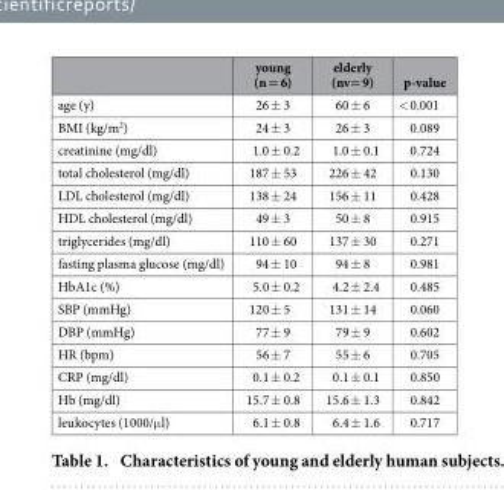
<table><thead><tr><td></td><td>young (n = 6)</td><td>elderly (nv= 9)</td><td>p-value</td></tr></thead><tbody><tr><td>age (y)</td><td>26 ± 3</td><td>60 ± 6</td><td>&lt; 0.001</td></tr><tr><td>BMI (kg/m<sup>2</sup>)</td><td>24 ± 3</td><td>26 ± 3</td><td>0.089</td></tr><tr><td>creatinine (mg/dl)</td><td>1.0 ± 0.2</td><td>1.0 ± 0.1</td><td>0.724</td></tr><tr><td>total cholesterol (mg/dl)</td><td>187 ± 53</td><td>226 ± 42</td><td>0.130</td></tr><tr><td>LDL cholesterol (mg/dl)</td><td>138 ± 24</td><td>156 ± 11</td><td>0.428</td></tr><tr><td>HDL cholesterol (mg/dl)</td><td>49 ± 3</td><td>50 ± 8</td><td>0.915</td></tr><tr><td>triglycerides (mg/dl)</td><td>110 ± 60</td><td>137 ± 30</td><td>0.271</td></tr><tr><td>fasting plasma glucose (mg/dl)</td><td>94 ± 10</td><td>94 ± 8</td><td>0.981</td></tr><tr><td>HbA1c (%)</td><td>5.0 ± 0.2</td><td>4.2 ± 2.4</td><td>0.485</td></tr><tr><td>SBP (mmHg)</td><td>120 ± 5</td><td>131 ± 14</td><td>0.060</td></tr><tr><td>DBP (mmHg)</td><td>77 ± 9</td><td>79 ± 9</td><td>0.602</td></tr><tr><td>HR (bpm)</td><td>56 ± 7</td><td>55 ± 6</td><td>0.705</td></tr><tr><td>CRP (mg/dl)</td><td>0.1 ± 0.2</td><td>0.1 ± 0.1</td><td>0.850</td></tr><tr><td>Hb (mg/dl)</td><td>15.7 ± 0.8</td><td>15.6 ± 1.3</td><td>0.842</td></tr><tr><td>leukocytes (1000/μ l)</td><td>6.1 ± 0.8</td><td>6.4 ± 1.6</td><td>0.717</td></tr></tbody></table>